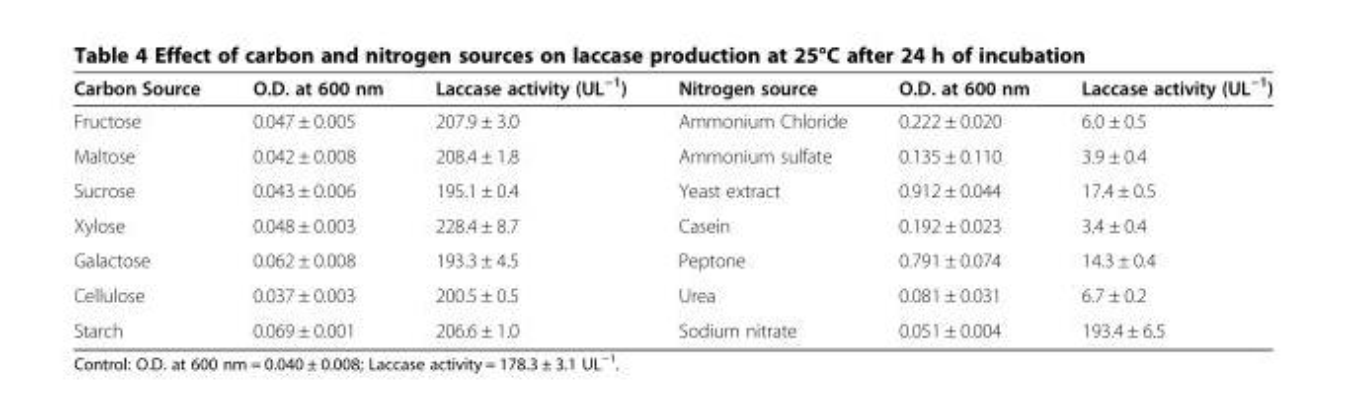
<table><thead><tr><td>Carbon Source</td><td>O.D. at 600 nm</td><td>Laccase activity (UL<sup>−1</sup>)</td><td>Nitrogen source</td><td>O.D. at 600 nm</td><td>Laccase activity (UL<sup>−1</sup>)</td></tr></thead><tbody><tr><td>Fructose</td><td>0.047 ± 0.005</td><td>207.9 ± 3.0</td><td>Ammonium Chloride</td><td>0.222 ± 0.020</td><td>6.0 ± 0.5</td></tr><tr><td>Maltose</td><td>0.042 ± 0.008</td><td>208.4 ± 1.8</td><td>Ammonium sulfate</td><td>0.135 ± 0.110</td><td>3.9 ± 0.4</td></tr><tr><td>Sucrose</td><td>0.043 ± 0.006</td><td>195.1 ± 0.4</td><td>Yeast extract</td><td>0.912 ± 0.044</td><td>17.4 ± 0.5</td></tr><tr><td>Xylose</td><td>0.048 ± 0.003</td><td>228.4 ± 8.7</td><td>Casein</td><td>0.192 ± 0.023</td><td>3.4 ± 0.4</td></tr><tr><td>Galactose</td><td>0.062 ± 0.008</td><td>193.3 ± 4.5</td><td>Peptone</td><td>0.791 ± 0.074</td><td>14.3 ± 0.4</td></tr><tr><td>Cellulose</td><td>0.037 ± 0.003</td><td>200.5 ± 0.5</td><td>Urea</td><td>0.081 ± 0.031</td><td>6.7 ± 0.2</td></tr><tr><td>Starch</td><td>0.069 ± 0.001</td><td>206.6 ± 1.0</td><td>Sodium nitrate</td><td>0.051 ± 0.004</td><td>193.4 ± 6.5</td></tr></tbody></table>